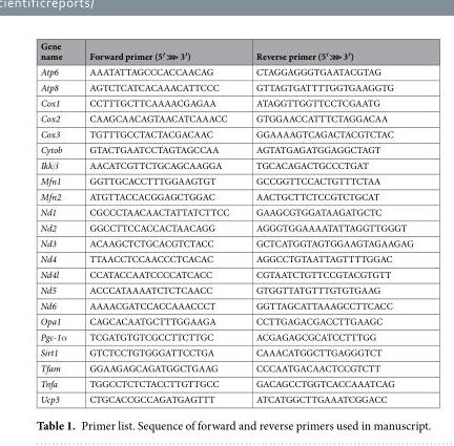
<table><thead><tr><td>Gene name</td><td>Forward primer (5′ ⋙ 3′)</td><td>Reverse primer (5′ ⋙ 3′)</td></tr></thead><tbody><tr><td>Atp6</td><td>AAATATTAGCCCACCAACAG</td><td>CTAGGAGGGTGAATACGTAG</td></tr><tr><td>Atp8</td><td>AGTCTCATCACAAACATTCCC</td><td>GTTAGTGATTTTGGTGAAGGTG</td></tr><tr><td>Cox1</td><td>CCTTTGCTTCAAAACGAGAA</td><td>ATAGGTTGGTTCCTCGAATG</td></tr><tr><td>Cox2</td><td>CAAGCAACAGTAACATCAAACC</td><td>GTGGAACCATTTCTAGGACAA</td></tr><tr><td>Cox3</td><td>TGTTTGCCTACTACGACAAC</td><td>GGAAAAGTCAGACTACGTCTAC</td></tr><tr><td>Cytob</td><td>GTACTGAATCCTAGTAGCCAA</td><td>AGTATGAGATGGAGGCTAGT</td></tr><tr><td>Ikkβ</td><td>AACATCGTTCTGCAGCAAGGA</td><td>TGCACAGACTGCCCTGAT</td></tr><tr><td>Mfn1</td><td>GGTTGCACCTTTGGAAGTGT</td><td>GCCGGTTCCACTGTTTCTAA</td></tr><tr><td>Mfn2</td><td>ATGTTACCACGGAGCTGGAC</td><td>AACTGCTTCTCCGTCTGCAT</td></tr><tr><td>Nd1</td><td>CGCCCTAACAACTATTATCTTCC</td><td>GAAGCGTGGATAAGATGCTC</td></tr><tr><td>Nd2</td><td>GGCCTTCCACCACTAACAGG</td><td>AGGGTGGAAAATATTAGGTTGGGT</td></tr><tr><td>Nd3</td><td>ACAAGCTCTGCACGTCTACC</td><td>GCTCATGGTAGTGGAAGTAGAAGAG</td></tr><tr><td>Nd4</td><td>TTAACCTCCAACCCTCACAC</td><td>AGGCCTGTAATTAGTTTTGGAC</td></tr><tr><td>Nd4l</td><td>CCATACCAATCCCCATCACC</td><td>CGTAATCTGTTCCGTACGTGTT</td></tr><tr><td>Nd5</td><td>ACCCATAAAATCTCTCAACC</td><td>GTGGTTATGTTTGTGTGAAG</td></tr><tr><td>Nd6</td><td>AAAACGATCCACCAAACCCT</td><td>GGTTAGCATTAAAGCCTTCACC</td></tr><tr><td>Opa1</td><td>CAGCACAATGCTTTGGAAGA</td><td>CCTTGAGACGACCTTGAAGC</td></tr><tr><td>Pgc-1α</td><td>TCGATGTGTCGCCTTCTTGC</td><td>ACGAGAGCGCATCCTTTGG</td></tr><tr><td>Sirt1</td><td>GTCTCCTGTGGGATTCCTGA</td><td>CAAACATGGCTTGAGGGTCT</td></tr><tr><td>Tfam</td><td>GGAAGAGCAGATGGCTGAAG</td><td>CCCAATGACAACTCCGTCTT</td></tr><tr><td>Tnfa</td><td>TGGCCTCTCTACCTTGTTGCC</td><td>GACAGCCTGGTCACCAAATCAG</td></tr><tr><td>Ucp3</td><td>CTGCACCGCCAGATGAGTTT</td><td>ATCATGGCTTGAAATCGGACC</td></tr></tbody></table>